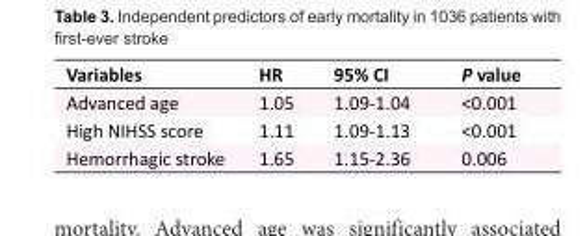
<table><tbody><tr><td>Variables</td><td>HR</td><td>95% CI</td><td>P value</td></tr><tr><td>Advanced age</td><td>1.05</td><td>1.09-1.04</td><td>&lt;0.001</td></tr><tr><td>High NIHSS score</td><td>1.11</td><td>1.09-1.13</td><td>&lt;0.001</td></tr><tr><td>Hemorrhagic stroke</td><td>1.65</td><td>1.15-2.36</td><td>0.006</td></tr></tbody></table>